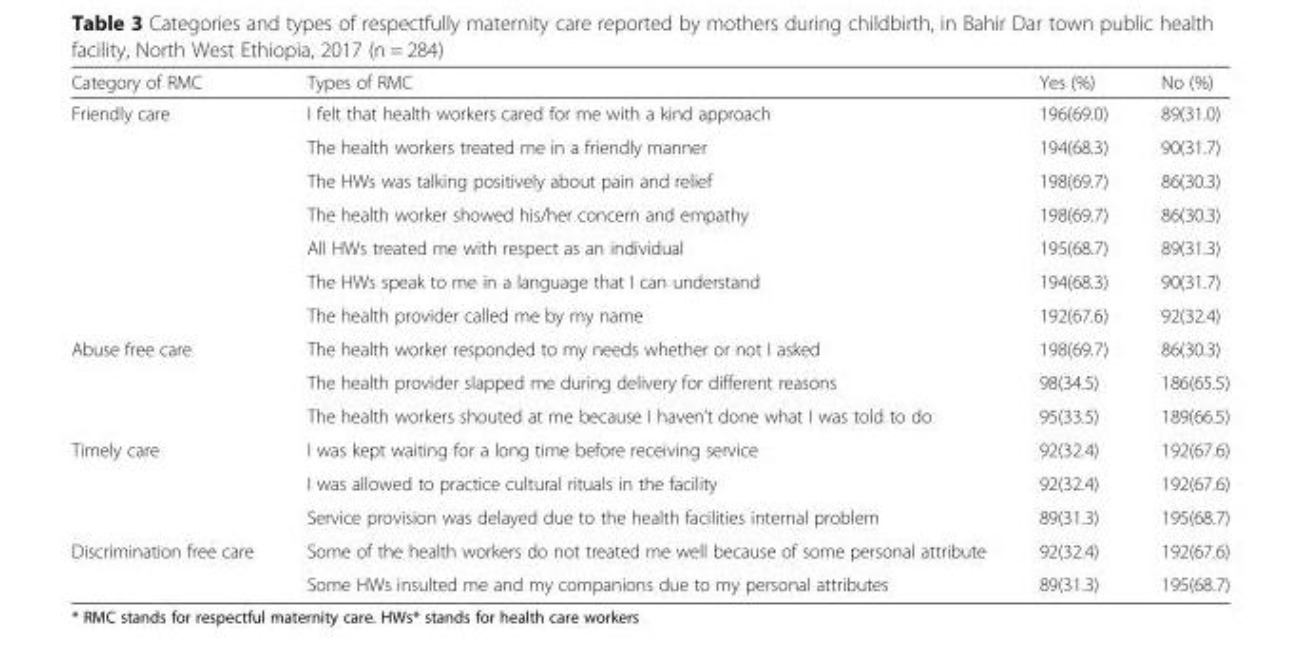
<table><thead><tr><td>Category of RMC</td><td>Types of RMC</td><td>Yes (%)</td><td>No (%)</td></tr></thead><tbody><tr><td rowspan="7">Friendly care</td><td>I felt that health workers cared for me with a kind approach</td><td>196(69.0)</td><td>89(31.0)</td></tr><tr><td>The health workers treated me in a friendly manner</td><td>194(68.3)</td><td>90(31.7)</td></tr><tr><td>The HWs was talking positively about pain and relief</td><td>198(69.7)</td><td>86(30.3)</td></tr><tr><td>The health worker showed his/her concern and empathy</td><td>198(69.7)</td><td>86(30.3)</td></tr><tr><td>All HWs treated me with respect as an individual</td><td>195(68.7)</td><td>89(31.3)</td></tr><tr><td>The HWs speak to me in a language that I can understand</td><td>194(68.3)</td><td>90(31.7)</td></tr><tr><td>The health provider called me by my name</td><td>192(67.6)</td><td>92(32.4)</td></tr><tr><td rowspan="3">Abuse free care</td><td>The health worker responded to my needs whether or not I asked</td><td>198(69.7)</td><td>86(30.3)</td></tr><tr><td>The health provider slapped me during delivery for different reasons</td><td>98(34.5)</td><td>186(65.5)</td></tr><tr><td>The health workers shouted at me because I haven’t done what I was told to do</td><td>95(33.5)</td><td>189(66.5)</td></tr><tr><td rowspan="3">Timely care</td><td>I was kept waiting for a long time before receiving service</td><td>92(32.4)</td><td>192(67.6)</td></tr><tr><td>I was allowed to practice cultural rituals in the facility</td><td>92(32.4)</td><td>192(67.6)</td></tr><tr><td>Service provision was delayed due to the health facilities internal problem</td><td>89(31.3)</td><td>195(68.7)</td></tr><tr><td rowspan="2">Discrimination free care</td><td>Some of the health workers do not treated me well because of some personal attribute</td><td>92(32.4)</td><td>192(67.6)</td></tr><tr><td>Some HWs insulted me and my companions due to my personal attributes</td><td>89(31.3)</td><td>195(68.7)</td></tr></tbody></table>